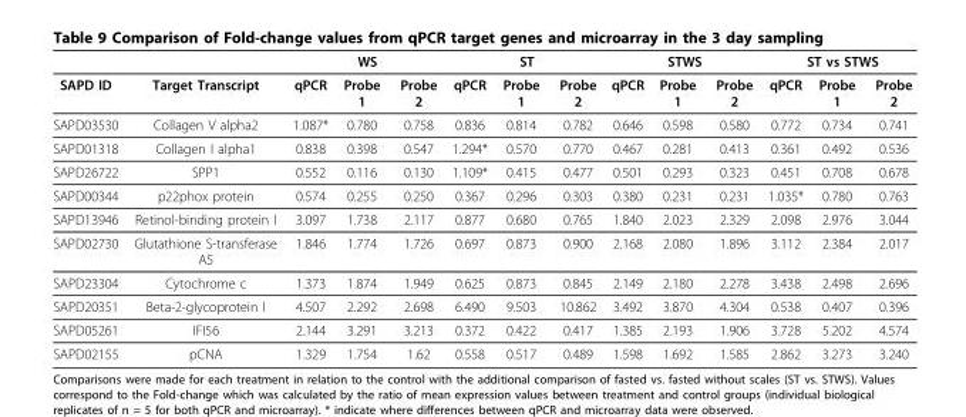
<table><thead><tr><td rowspan="2">SAPD ID</td><td rowspan="2">Target Transcript</td><td colspan="3">WS</td><td colspan="3">ST</td><td colspan="3">STWS</td><td colspan="3">ST vs STWS</td></tr><tr><td>qPCR</td><td>Probe 1</td><td>Probe 2</td><td>qPCR</td><td>Probe 1</td><td>Probe 2</td><td>qPCR</td><td>Probe 1</td><td>Probe 2</td><td>qPCR</td><td>Probe 1</td><td>Probe 2</td></tr></thead><tbody><tr><td>SAPD03530</td><td>Collagen V alpha2</td><td>1.087*</td><td>0.780</td><td>0.758</td><td>0.836</td><td>0.814</td><td>0.782</td><td>0.646</td><td>0.598</td><td>0.580</td><td>0.772</td><td>0.734</td><td>0.741</td></tr><tr><td>SAPD01318</td><td>Collagen I alpha1</td><td>0.838</td><td>0.398</td><td>0.547</td><td>1.294*</td><td>0.570</td><td>0.770</td><td>0.467</td><td>0.281</td><td>0.413</td><td>0.361</td><td>0.492</td><td>0.536</td></tr><tr><td>SAPD26722</td><td>SPP1</td><td>0.552</td><td>0.116</td><td>0.130</td><td>1.109*</td><td>0.415</td><td>0.477</td><td>0.501</td><td>0.293</td><td>0.323</td><td>0.451</td><td>0.708</td><td>0.678</td></tr><tr><td>SAPD00344</td><td>p22phox protein</td><td>0.574</td><td>0.255</td><td>0.250</td><td>0.367</td><td>0.296</td><td>0.303</td><td>0.380</td><td>0.231</td><td>0.231</td><td>1.035*</td><td>0.780</td><td>0.763</td></tr><tr><td>SAPD13946</td><td>Retinol-binding protein I</td><td>3.097</td><td>1.738</td><td>2.117</td><td>0.877</td><td>0.680</td><td>0.765</td><td>1.840</td><td>2.023</td><td>2.329</td><td>2.098</td><td>2.976</td><td>3.044</td></tr><tr><td>SAPD02730</td><td>Glutathione S-transferase A5</td><td>1.846</td><td>1.774</td><td>1.726</td><td>0.697</td><td>0.873</td><td>0.900</td><td>2.168</td><td>2.080</td><td>1.896</td><td>3.112</td><td>2.384</td><td>2.017</td></tr><tr><td>SAPD23304</td><td>Cytochrome c</td><td>1.373</td><td>1.874</td><td>1.949</td><td>0.625</td><td>0.873</td><td>0.845</td><td>2.149</td><td>2.180</td><td>2.278</td><td>3.438</td><td>2.498</td><td>2.696</td></tr><tr><td>SAPD20351</td><td>Beta-2-glycoprotein I</td><td>4.507</td><td>2.292</td><td>2.698</td><td>6.490</td><td>9.503</td><td>10.862</td><td>3.492</td><td>3.870</td><td>4.304</td><td>0.538</td><td>0.407</td><td>0.396</td></tr><tr><td>SAPD05261</td><td>IFI56</td><td>2.144</td><td>3.291</td><td>3.213</td><td>0.372</td><td>0.422</td><td>0.417</td><td>1.385</td><td>2.193</td><td>1.906</td><td>3.728</td><td>5.202</td><td>4.574</td></tr><tr><td>SAPD02155</td><td>pCNA</td><td>1.329</td><td>1.754</td><td>1.62</td><td>0.558</td><td>0.517</td><td>0.489</td><td>1.598</td><td>1.692</td><td>1.585</td><td>2.862</td><td>3.273</td><td>3.240</td></tr></tbody></table>